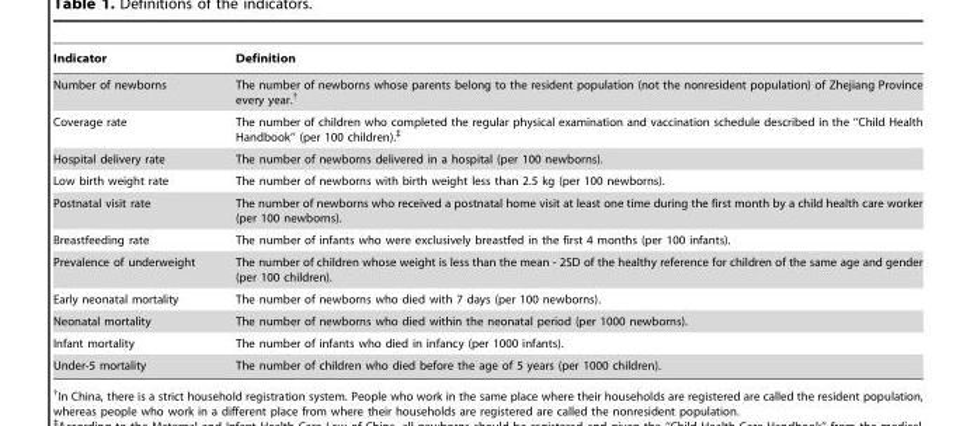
<table><thead><tr><td>Indicator</td><td>Definition</td></tr></thead><tbody><tr><td>Number of newborns</td><td>The number of newborns whose parents belong to the resident population (not the nonresident population) of Zhejiang Province every year.†</td></tr><tr><td>Coverage rate</td><td>The number of children who completed the regular physical examination and vaccination schedule described in the ‘‘Child Health Handbook’’ (per 100 children).`</td></tr><tr><td>Hospital delivery rate</td><td>The number of newborns delivered in a hospital (per 100 newborns).</td></tr><tr><td>Low birth weight rate</td><td>The number of newborns with birth weight less than 2.5 kg (per 100 newborns).</td></tr><tr><td>Postnatal visit rate</td><td>The number of newborns who received a postnatal home visit at least one time during the first month by a child health care worker (per 100 newborns).</td></tr><tr><td>Breastfeeding rate</td><td>The number of infants who were exclusively breastfed in the first 4 months (per 100 infants).</td></tr><tr><td>Prevalence of underweight</td><td>The number of children whose weight is less than the mean - 2SD of the healthy reference for children of the same age and gender (per 100 children).</td></tr><tr><td>Early neonatal mortality</td><td>The number of newborns who died with 7 days (per 100 newborns).</td></tr><tr><td>Neonatal mortality</td><td>The number of newborns who died within the neonatal period (per 1000 newborns).</td></tr><tr><td>Infant mortality</td><td>The number of infants who died in infancy (per 1000 infants).</td></tr><tr><td>Under-5 mortality</td><td>The number of children who died before the age of 5 years (per 1000 children).</td></tr></tbody></table>